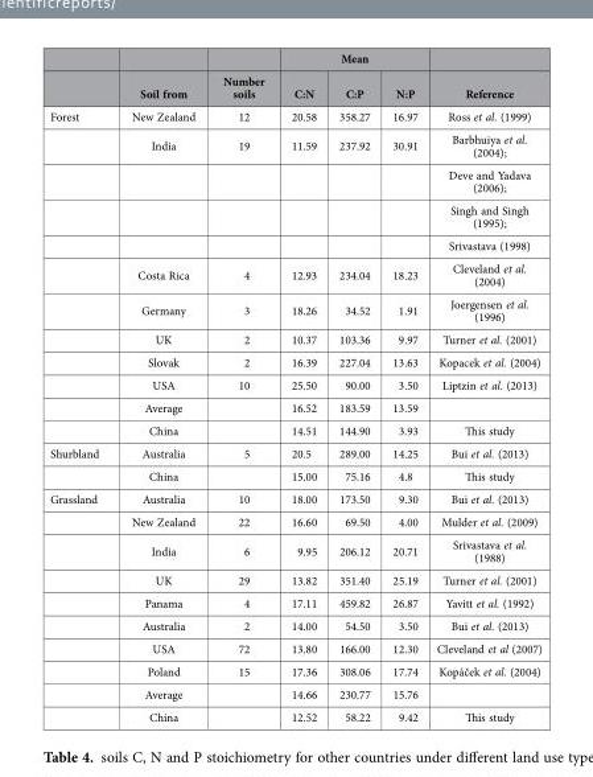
<table><thead><tr><td rowspan="2"></td><td rowspan="2">Soil from</td><td rowspan="2">Number soils</td><td colspan="3">Mean</td><td rowspan="2">Reference</td></tr><tr><td>C:N</td><td>C:P</td><td>N:P</td></tr></thead><tbody><tr><td rowspan="12">Forest</td><td>New Zealand</td><td>12</td><td>20.58</td><td>358.27</td><td>16.97</td><td>Ross et al. (1999)</td></tr><tr><td>India</td><td>19</td><td>11.59</td><td>237.92</td><td>30.91</td><td>Barbhuiya et al. (2004);</td></tr><tr><td></td><td></td><td></td><td></td><td></td><td>Deve and Yadava (2006);</td></tr><tr><td></td><td></td><td></td><td></td><td></td><td>Singh and Singh (1995);</td></tr><tr><td></td><td></td><td></td><td></td><td></td><td>Srivastava (1998)</td></tr><tr><td>Costa Rica</td><td>4</td><td>12.93</td><td>234.04</td><td>18.23</td><td>Cleveland et al. (2004)</td></tr><tr><td>Germany</td><td>3</td><td>18.26</td><td>34.52</td><td>1.91</td><td>Joergensen et al. (1996)</td></tr><tr><td>UK</td><td>2</td><td>10.37</td><td>103.36</td><td>9.97</td><td>Turner et al. (2001)</td></tr><tr><td>Slovak</td><td>2</td><td>16.39</td><td>227.04</td><td>13.63</td><td>Kopacek et al. (2004)</td></tr><tr><td>USA</td><td>10</td><td>25.50</td><td>90.00</td><td>3.50</td><td>Liptzin et al. (2013)</td></tr><tr><td>Average</td><td></td><td>16.52</td><td>183.59</td><td>13.59</td><td></td></tr><tr><td>China</td><td></td><td>14.51</td><td>144.90</td><td>3.93</td><td>This study</td></tr><tr><td rowspan="2">Shurbland</td><td>Australia</td><td>5</td><td>20.5</td><td>289.00</td><td>14.25</td><td>Bui et al. (2013)</td></tr><tr><td>China</td><td></td><td>15.00</td><td>75.16</td><td>4.8</td><td>This study</td></tr><tr><td rowspan="10">Grassland</td><td>Australia</td><td>10</td><td>18.00</td><td>173.50</td><td>9.30</td><td>Bui et al. (2013)</td></tr><tr><td>New Zealand</td><td>22</td><td>16.60</td><td>69.50</td><td>4.00</td><td>Mulder et al. (2009)</td></tr><tr><td>India</td><td>6</td><td>9.95</td><td>206.12</td><td>20.71</td><td>Srivastava et al. (1988)</td></tr><tr><td>UK</td><td>29</td><td>13.82</td><td>351.40</td><td>25.19</td><td>Turner et al. (2001)</td></tr><tr><td>Panama</td><td>4</td><td>17.11</td><td>459.82</td><td>26.87</td><td>Yavitt et al. (1992)</td></tr><tr><td>Australia</td><td>2</td><td>14.00</td><td>54.50</td><td>3.50</td><td>Bui et al. (2013)</td></tr><tr><td>USA</td><td>72</td><td>13.80</td><td>166.00</td><td>12.30</td><td>Cleveland et al (2007)</td></tr><tr><td>Poland</td><td>15</td><td>17.36</td><td>308.06</td><td>17.74</td><td>Kopáček et al. (2004)</td></tr><tr><td>Average</td><td></td><td>14.66</td><td>230.77</td><td>15.76</td><td></td></tr><tr><td>China</td><td></td><td>12.52</td><td>58.22</td><td>9.42</td><td>This study</td></tr></tbody></table>